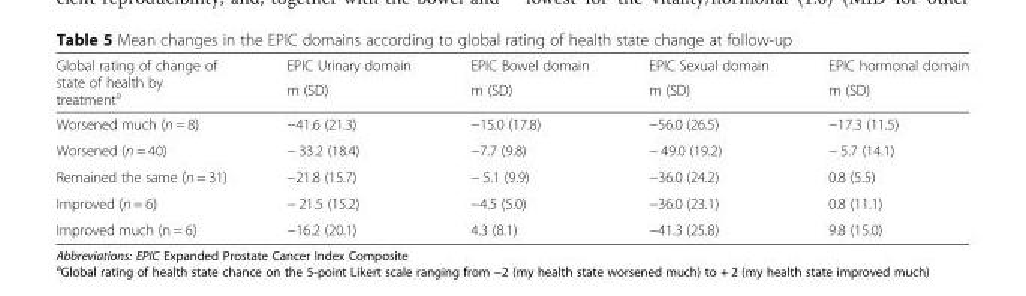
<table><thead><tr><td rowspan="2">Global rating of change of state of health by treatment<sup>a</sup></td><td rowspan="2">EPIC Urinary domain m (SD)</td><td rowspan="2">EPIC Bowel domain m (SD)</td><td rowspan="2">EPIC Sexual domain m (SD)</td><td rowspan="2">EPIC hormonal domain m (SD)</td></tr><tr></tr></thead><tbody><tr><td>Worsened much (n = 8)</td><td>−41.6 (21.3)</td><td>−15.0 (17.8)</td><td>−56.0 (26.5)</td><td>−17.3 (11.5)</td></tr><tr><td>Worsened (n = 40)</td><td>− 33.2 (18.4)</td><td>−7.7 (9.8)</td><td>− 49.0 (19.2)</td><td>− 5.7 (14.1)</td></tr><tr><td>Remained the same (n = 31)</td><td>−21.8 (15.7)</td><td>− 5.1 (9.9)</td><td>−36.0 (24.2)</td><td>0.8 (5.5)</td></tr><tr><td>Improved (n = 6)</td><td>− 21.5 (15.2)</td><td>−4.5 (5.0)</td><td>−36.0 (23.1)</td><td>0.8 (11.1)</td></tr><tr><td>Improved much (n = 6)</td><td>−16.2 (20.1)</td><td>4.3 (8.1)</td><td>−41.3 (25.8)</td><td>9.8 (15.0)</td></tr></tbody></table>